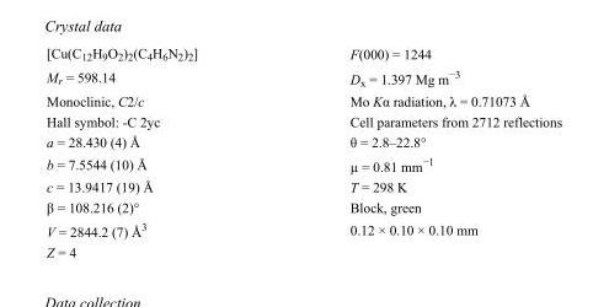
<table><tbody><tr><td>[Cu(C<sub>12</sub>H<sub>9</sub>O<sub>2</sub>)<sub>2</sub>(C<sub>4</sub>H<sub>6</sub>N<sub>2</sub>)<sub>2</sub>]</td><td>F(000) = 1244</td></tr><tr><td>M<sub>r</sub> = 598.14</td><td>D<sub>x</sub> = 1.397 Mg m<sup>−3</sup></td></tr><tr><td>Monoclinic, C2/c</td><td>Mo Kα radiation, λ = 0.71073 Å</td></tr><tr><td>Hall symbol: -C 2yc</td><td>Cell parameters from 2712 reflections</td></tr><tr><td>a = 28.430 (4) Å</td><td>θ = 2.8–22.8°</td></tr><tr><td>b = 7.5544 (10) Å</td><td>µ = 0.81 mm<sup>−1</sup></td></tr><tr><td>c = 13.9417 (19) Å</td><td>T = 298 K</td></tr><tr><td>β = 108.216 (2)°</td><td>Block, green</td></tr><tr><td>V = 2844.2 (7) Å<sup>3</sup></td><td>0.12 × 0.10 × 0.10 mm</td></tr><tr><td>Z = 4</td><td></td></tr></tbody></table>